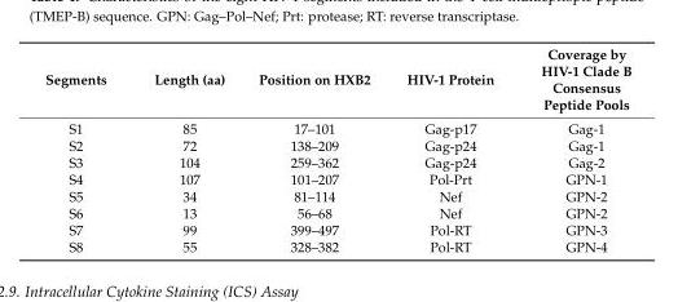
<table><thead><tr><td>Segments</td><td>Length (aa)</td><td>Position on HXB2</td><td>HIV-1 Protein</td><td>Coverage by HIV-1 Clade B Consensus Peptide Pools</td></tr></thead><tbody><tr><td>S1</td><td>85</td><td>17–101</td><td>Gag-p17</td><td>Gag-1</td></tr><tr><td>S2</td><td>72</td><td>138–209</td><td>Gag-p24</td><td>Gag-1</td></tr><tr><td>S3</td><td>104</td><td>259–362</td><td>Gag-p24</td><td>Gag-2</td></tr><tr><td>S4</td><td>107</td><td>101–207</td><td>Pol-Prt</td><td>GPN-1</td></tr><tr><td>S5</td><td>34</td><td>81–114</td><td>Nef</td><td>GPN-2</td></tr><tr><td>S6</td><td>13</td><td>56–68</td><td>Nef</td><td>GPN-2</td></tr><tr><td>S7</td><td>99</td><td>399–497</td><td>Pol-RT</td><td>GPN-3</td></tr><tr><td>S8</td><td>55</td><td>328–382</td><td>Pol-RT</td><td>GPN-4</td></tr></tbody></table>